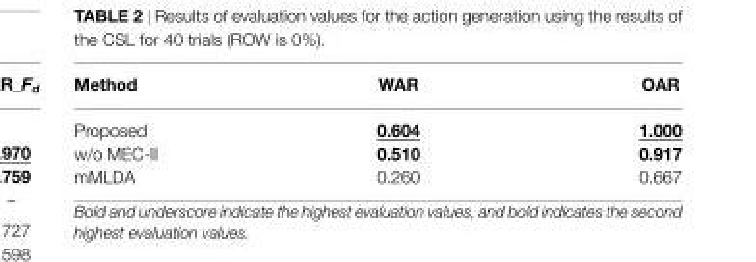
<table><thead><tr><td>Method</td><td>WAR</td><td>OAR</td></tr></thead><tbody><tr><td>Proposed</td><td>0.604</td><td>1.000</td></tr><tr><td>w/o MEC-II</td><td>0.510</td><td>0.917</td></tr><tr><td>mMLDA</td><td>0.260</td><td>0.667</td></tr></tbody></table>